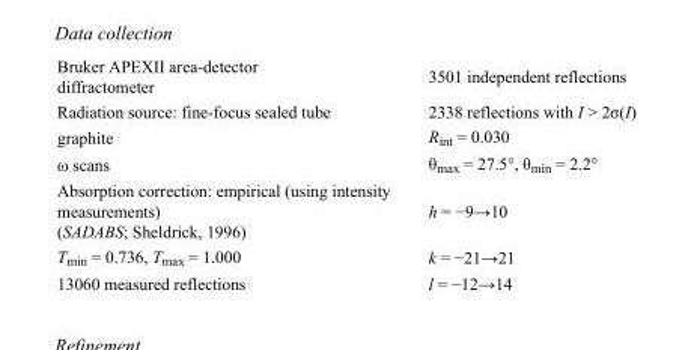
<table><tbody><tr><td>Bruker APEXII area-detector diffractometer</td><td>3501 independent reflections</td></tr><tr><td>Radiation source: fine-focus sealed tube</td><td>2338 reflections with I &gt; 2σ(I)</td></tr><tr><td>graphite</td><td>R<sub>int</sub> = 0.030</td></tr><tr><td>ω scans</td><td>θ<sub>max</sub> = 27.5°, θ<sub>min</sub> = 2.2°</td></tr><tr><td>Absorption correction: empirical (using intensity measurements) (SADABS; Sheldrick, 1996)</td><td>h = −9→10</td></tr><tr><td>T<sub>min</sub> = 0.736, T<sub>max</sub> = 1.000</td><td>k = −21→21</td></tr><tr><td>13060 measured reflections</td><td>l = −12→14</td></tr></tbody></table>